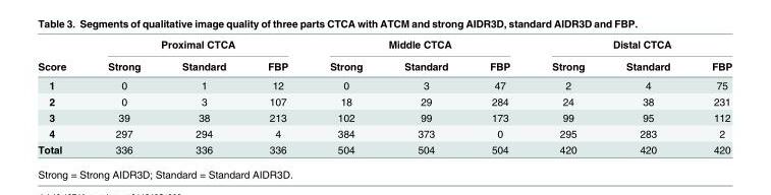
<table><thead><tr><td rowspan="2">Score</td><td colspan="3">Proximal CTCA</td><td colspan="3">Middle CTCA</td><td colspan="3">Distal CTCA</td></tr><tr><td>Strong</td><td>Standard</td><td>FBP</td><td>Strong</td><td>Standard</td><td>FBP</td><td>Strong</td><td>Standard</td><td>FBP</td></tr></thead><tbody><tr><td>1</td><td>0</td><td>1</td><td>12</td><td>0</td><td>3</td><td>47</td><td>2</td><td>4</td><td>75</td></tr><tr><td>2</td><td>0</td><td>3</td><td>107</td><td>18</td><td>29</td><td>284</td><td>24</td><td>38</td><td>231</td></tr><tr><td>3</td><td>39</td><td>38</td><td>213</td><td>102</td><td>99</td><td>173</td><td>99</td><td>95</td><td>112</td></tr><tr><td>4</td><td>297</td><td>294</td><td>4</td><td>384</td><td>373</td><td>0</td><td>295</td><td>283</td><td>2</td></tr><tr><td>Total</td><td>336</td><td>336</td><td>336</td><td>504</td><td>504</td><td>504</td><td>420</td><td>420</td><td>420</td></tr></tbody></table>